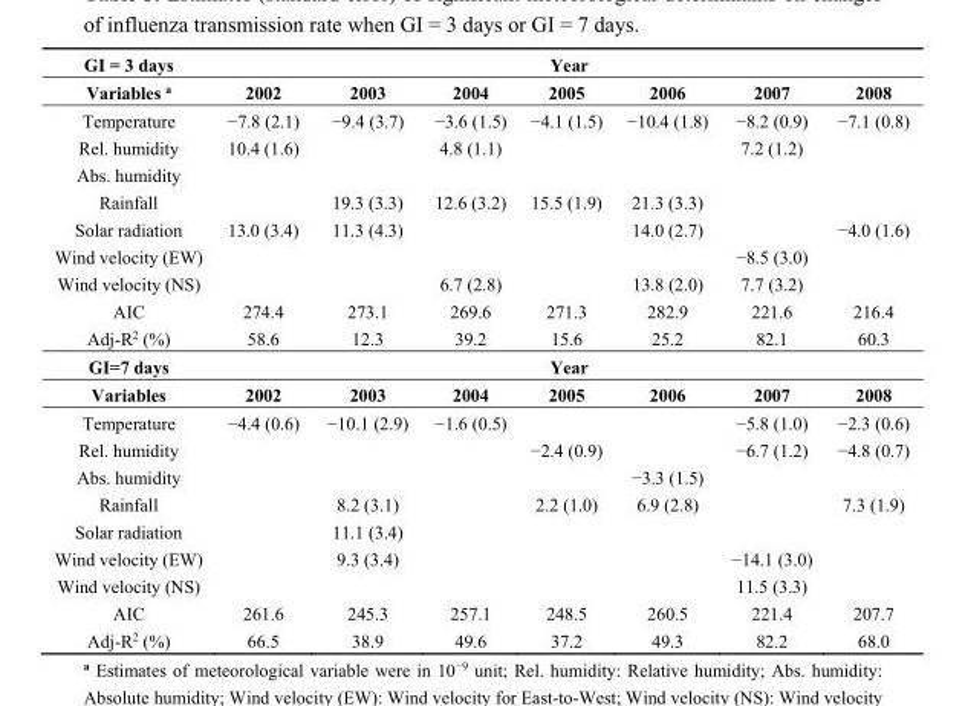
<table><tbody><tr><td>GI = 3 days</td><td colspan="7">Year</td></tr><tr><td>Variables <sup>a</sup></td><td>2002</td><td>2003</td><td>2004</td><td>2005</td><td>2006</td><td>2007</td><td>2008</td></tr><tr><td>Temperature</td><td>−7.8 (2.1)</td><td>−9.4 (3.7)</td><td>−3.6 (1.5)</td><td>−4.1 (1.5)</td><td>−10.4 (1.8)</td><td>−8.2 (0.9)</td><td>−7.1 (0.8)</td></tr><tr><td>Rel. humidity</td><td>10.4 (1.6)</td><td></td><td>4.8 (1.1)</td><td></td><td></td><td>7.2 (1.2)</td><td></td></tr><tr><td colspan="8">Abs. humidity</td></tr><tr><td>Rainfall</td><td></td><td>19.3 (3.3)</td><td>12.6 (3.2)</td><td>15.5 (1.9)</td><td>21.3 (3.3)</td><td></td><td></td></tr><tr><td>Solar radiation</td><td>13.0 (3.4)</td><td>11.3 (4.3)</td><td></td><td></td><td>14.0 (2.7)</td><td></td><td>−4.0 (1.6)</td></tr><tr><td>Wind velocity (EW)</td><td></td><td></td><td></td><td></td><td></td><td>−8.5 (3.0)</td><td></td></tr><tr><td>Wind velocity (NS)</td><td></td><td></td><td>6.7 (2.8)</td><td></td><td>13.8 (2.0)</td><td>7.7 (3.2)</td><td></td></tr><tr><td>AIC</td><td>274.4</td><td>273.1</td><td>269.6</td><td>271.3</td><td>282.9</td><td>221.6</td><td>216.4</td></tr><tr><td>Adj-R<sup>2</sup> (%)</td><td>58.6</td><td>12.3</td><td>39.2</td><td>15.6</td><td>25.2</td><td>82.1</td><td>60.3</td></tr><tr><td>GI=7 days</td><td colspan="7">Year</td></tr><tr><td>Variables</td><td>2002</td><td>2003</td><td>2004</td><td>2005</td><td>2006</td><td>2007</td><td>2008</td></tr><tr><td>Temperature</td><td>−4.4 (0.6)</td><td>−10.1 (2.9)</td><td>−1.6 (0.5)</td><td></td><td></td><td>−5.8 (1.0)</td><td>−2.3 (0.6)</td></tr><tr><td>Rel. humidity</td><td></td><td></td><td></td><td>−2.4 (0.9)</td><td></td><td>−6.7 (1.2)</td><td>−4.8 (0.7)</td></tr><tr><td>Abs. humidity</td><td></td><td></td><td></td><td></td><td>−3.3 (1.5)</td><td></td><td></td></tr><tr><td>Rainfall</td><td></td><td>8.2 (3.1)</td><td></td><td>2.2 (1.0)</td><td>6.9 (2.8)</td><td></td><td>7.3 (1.9)</td></tr><tr><td>Solar radiation</td><td></td><td>11.1 (3.4)</td><td></td><td></td><td></td><td></td><td></td></tr><tr><td>Wind velocity (EW)</td><td></td><td>9.3 (3.4)</td><td></td><td></td><td></td><td>−14.1 (3.0)</td><td></td></tr><tr><td>Wind velocity (NS)</td><td></td><td></td><td></td><td></td><td></td><td>11.5 (3.3)</td><td></td></tr><tr><td>AIC</td><td>261.6</td><td>245.3</td><td>257.1</td><td>248.5</td><td>260.5</td><td>221.4</td><td>207.7</td></tr><tr><td>Adj-R<sup>2</sup> (%)</td><td>66.5</td><td>38.9</td><td>49.6</td><td>37.2</td><td>49.3</td><td>82.2</td><td>68.0</td></tr></tbody></table>